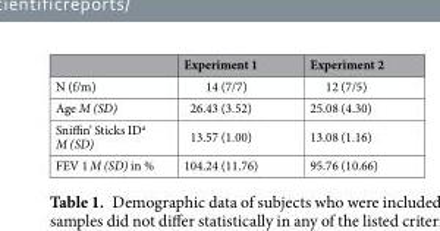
<table><thead><tr><td></td><td>Experiment 1</td><td>Experiment 2</td></tr></thead><tbody><tr><td>N (f/m)</td><td>14 (7/7)</td><td>12 (7/5)</td></tr><tr><td>Age M (SD)</td><td>26.43 (3.52)</td><td>25.08 (4.30)</td></tr><tr><td>Sniffin’ Sticks ID<sup>a</sup> M (SD)</td><td>13.57 (1.00)</td><td>13.08 (1.16)</td></tr><tr><td>FEV 1 M (SD) in %</td><td>104.24 (11.76)</td><td>95.76 (10.66)</td></tr></tbody></table>